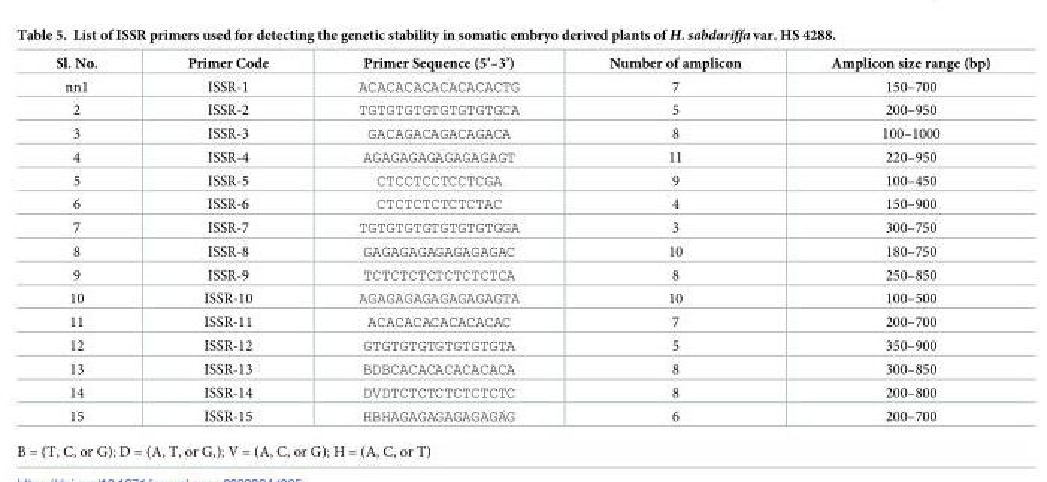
<table><thead><tr><td>Sl. No.</td><td>Primer Code</td><td>Primer Sequence (5’–3’)</td><td>Number of amplicon</td><td>Amplicon size range (bp)</td></tr></thead><tbody><tr><td>nn1</td><td>ISSR-1</td><td>ACACACACACACACACTG</td><td>7</td><td>150–700</td></tr><tr><td>2</td><td>ISSR-2</td><td>TGTGTGTGTGTGTGTGCA</td><td>5</td><td>200–950</td></tr><tr><td>3</td><td>ISSR-3</td><td>GACAGACAGACAGACA</td><td>8</td><td>100–1000</td></tr><tr><td>4</td><td>ISSR-4</td><td>AGAGAGAGAGAGAGAGT</td><td>11</td><td>220–950</td></tr><tr><td>5</td><td>ISSR-5</td><td>CTCCTCCTCCTCGA</td><td>9</td><td>100–450</td></tr><tr><td>6</td><td>ISSR-6</td><td>CTCTCTCTCTCTAC</td><td>4</td><td>150–900</td></tr><tr><td>7</td><td>ISSR-7</td><td>TGTGTGTGTGTGTGTGGA</td><td>3</td><td>300–750</td></tr><tr><td>8</td><td>ISSR-8</td><td>GAGAGAGAGAGAGAGAC</td><td>10</td><td>180–750</td></tr><tr><td>9</td><td>ISSR-9</td><td>TCTCTCTCTCTCTCTCA</td><td>8</td><td>250–850</td></tr><tr><td>10</td><td>ISSR-10</td><td>AGAGAGAGAGAGAGAGTA</td><td>10</td><td>100–500</td></tr><tr><td>11</td><td>ISSR-11</td><td>ACACACACACACACAC</td><td>7</td><td>200–700</td></tr><tr><td>12</td><td>ISSR-12</td><td>GTGTGTGTGTGTGTGTA</td><td>5</td><td>350–900</td></tr><tr><td>13</td><td>ISSR-13</td><td>BDBCACACACACACACA</td><td>8</td><td>300–850</td></tr><tr><td>14</td><td>ISSR-14</td><td>DVDTCTCTCTCTCTCTC</td><td>8</td><td>200–800</td></tr><tr><td>15</td><td>ISSR-15</td><td>HBHAGAGAGAGAGAGAG</td><td>6</td><td>200–700</td></tr></tbody></table>